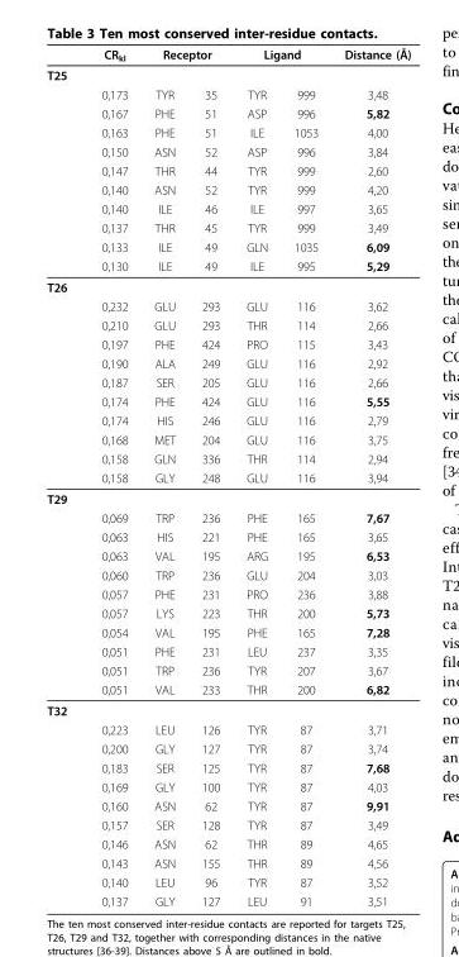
<table><thead><tr><td rowspan="2">T25</td><td rowspan="2">CR<sub>kl</sub></td><td colspan="2">Receptor</td><td colspan="2">Ligand</td><td rowspan="2">Distance (Å)</td></tr><tr><td></td><td></td><td></td><td></td></tr></thead><tbody><tr><td></td><td>0,173</td><td>TYR</td><td>35</td><td>TYR</td><td>999</td><td>3,48</td></tr><tr><td></td><td>0,167</td><td>PHE</td><td>51</td><td>ASP</td><td>996</td><td>5,82</td></tr><tr><td></td><td>0,163</td><td>PHE</td><td>51</td><td>ILE</td><td>1053</td><td>4,00</td></tr><tr><td></td><td>0,150</td><td>ASN</td><td>52</td><td>ASP</td><td>996</td><td>3,84</td></tr><tr><td></td><td>0,147</td><td>THR</td><td>44</td><td>TYR</td><td>999</td><td>2,60</td></tr><tr><td></td><td>0,140</td><td>ASN</td><td>52</td><td>TYR</td><td>999</td><td>4,20</td></tr><tr><td></td><td>0,140</td><td>ILE</td><td>46</td><td>ILE</td><td>997</td><td>3,65</td></tr><tr><td></td><td>0,137</td><td>THR</td><td>45</td><td>TYR</td><td>999</td><td>3,49</td></tr><tr><td></td><td>0,133</td><td>ILE</td><td>49</td><td>GLN</td><td>1035</td><td>6,09</td></tr><tr><td></td><td>0,130</td><td>ILE</td><td>49</td><td>ILE</td><td>995</td><td>5,29</td></tr><tr><td colspan="7">T26</td></tr><tr><td></td><td>0,232</td><td>GLU</td><td>293</td><td>GLU</td><td>116</td><td>3,62</td></tr><tr><td></td><td>0,210</td><td>GLU</td><td>293</td><td>THR</td><td>114</td><td>2,66</td></tr><tr><td></td><td>0,197</td><td>PHE</td><td>424</td><td>PRO</td><td>115</td><td>3,43</td></tr><tr><td></td><td>0,190</td><td>ALA</td><td>249</td><td>GLU</td><td>116</td><td>2,92</td></tr><tr><td></td><td>0,187</td><td>SER</td><td>205</td><td>GLU</td><td>116</td><td>2,66</td></tr><tr><td></td><td>0,174</td><td>PHE</td><td>424</td><td>GLU</td><td>116</td><td>5,55</td></tr><tr><td></td><td>0,174</td><td>HIS</td><td>246</td><td>GLU</td><td>116</td><td>2,79</td></tr><tr><td></td><td>0,168</td><td>MET</td><td>204</td><td>GLU</td><td>116</td><td>3,75</td></tr><tr><td></td><td>0,158</td><td>GLN</td><td>336</td><td>THR</td><td>114</td><td>2,94</td></tr><tr><td></td><td>0,158</td><td>GLY</td><td>248</td><td>GLU</td><td>116</td><td>3,94</td></tr><tr><td colspan="7">T29</td></tr><tr><td></td><td>0,069</td><td>TRP</td><td>236</td><td>PHE</td><td>165</td><td>7,67</td></tr><tr><td></td><td>0,063</td><td>HIS</td><td>221</td><td>PHE</td><td>165</td><td>3,65</td></tr><tr><td></td><td>0,063</td><td>VAL</td><td>195</td><td>ARG</td><td>195</td><td>6,53</td></tr><tr><td></td><td>0,060</td><td>TRP</td><td>236</td><td>GLU</td><td>204</td><td>3,03</td></tr><tr><td></td><td>0,057</td><td>PHE</td><td>231</td><td>PRO</td><td>236</td><td>3,88</td></tr><tr><td></td><td>0,057</td><td>LYS</td><td>223</td><td>THR</td><td>200</td><td>5,73</td></tr><tr><td></td><td>0,054</td><td>VAL</td><td>195</td><td>PHE</td><td>165</td><td>7,28</td></tr><tr><td></td><td>0,051</td><td>PHE</td><td>231</td><td>LEU</td><td>237</td><td>3,35</td></tr><tr><td></td><td>0,051</td><td>TRP</td><td>236</td><td>TYR</td><td>207</td><td>3,67</td></tr><tr><td></td><td>0,051</td><td>VAL</td><td>233</td><td>THR</td><td>200</td><td>6,82</td></tr><tr><td colspan="7">T32</td></tr><tr><td></td><td>0,223</td><td>LEU</td><td>126</td><td>TYR</td><td>87</td><td>3,71</td></tr><tr><td></td><td>0,200</td><td>GLY</td><td>127</td><td>TYR</td><td>87</td><td>3,74</td></tr><tr><td></td><td>0,183</td><td>SER</td><td>125</td><td>TYR</td><td>87</td><td>7,68</td></tr><tr><td></td><td>0,169</td><td>GLY</td><td>100</td><td>TYR</td><td>87</td><td>4,03</td></tr><tr><td></td><td>0,160</td><td>ASN</td><td>62</td><td>TYR</td><td>87</td><td>9,91</td></tr><tr><td></td><td>0,157</td><td>SER</td><td>128</td><td>TYR</td><td>87</td><td>3,49</td></tr><tr><td></td><td>0,146</td><td>ASN</td><td>62</td><td>THR</td><td>89</td><td>4,65</td></tr><tr><td></td><td>0,143</td><td>ASN</td><td>155</td><td>THR</td><td>89</td><td>4,56</td></tr><tr><td></td><td>0,140</td><td>LEU</td><td>96</td><td>TYR</td><td>87</td><td>3,52</td></tr><tr><td></td><td>0,137</td><td>GLY</td><td>127</td><td>LEU</td><td>91</td><td>3,51</td></tr></tbody></table>